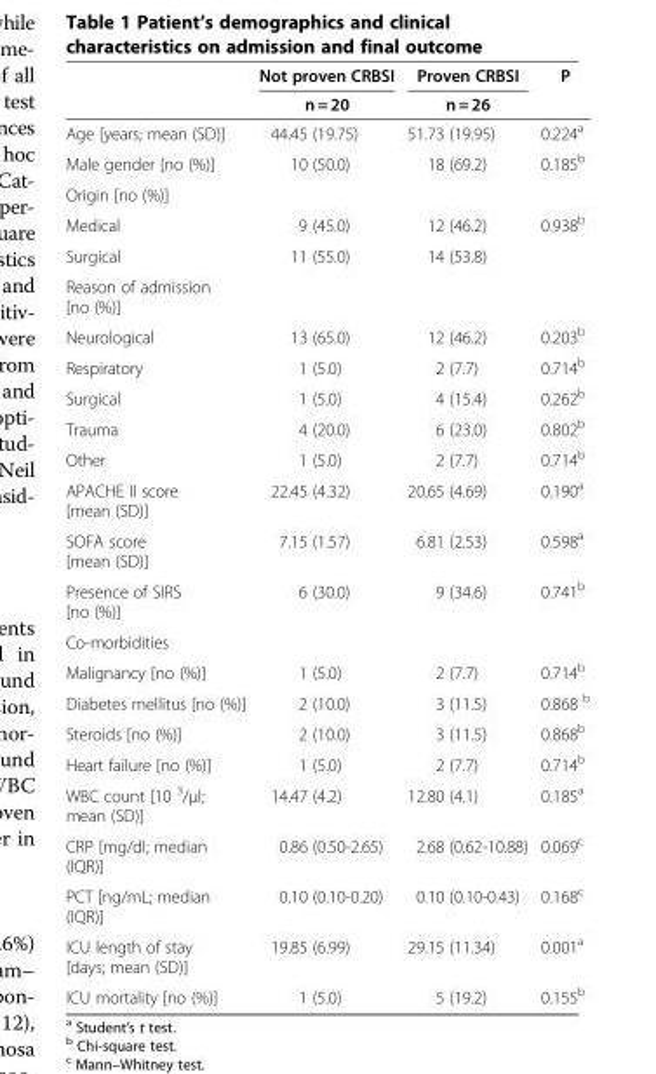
<table><thead><tr><td rowspan="2"></td><td rowspan="2">Not proven CRBSI n = 20</td><td rowspan="2">Proven CRBSI n = 26</td><td rowspan="2">P</td></tr><tr></tr></thead><tbody><tr><td>Age [years; mean (SD)]</td><td>44.45 (19.75)</td><td>51.73 (19.95)</td><td>0.224<sup>a</sup></td></tr><tr><td>Male gender [no (%)]</td><td>10 (50.0)</td><td>18 (69.2)</td><td>0.185<sup>b</sup></td></tr><tr><td colspan="4">Origin [no (%)]</td></tr><tr><td>Medical</td><td>9 (45.0)</td><td>12 (46.2)</td><td>0.938<sup>b</sup></td></tr><tr><td>Surgical</td><td>11 (55.0)</td><td>14 (53.8)</td><td></td></tr><tr><td colspan="4">Reason of admission [no (%)]</td></tr><tr><td>Neurological</td><td>13 (65.0)</td><td>12 (46.2)</td><td>0.203<sup>b</sup></td></tr><tr><td>Respiratory</td><td>1 (5.0)</td><td>2 (7.7)</td><td>0.714<sup>b</sup></td></tr><tr><td>Surgical</td><td>1 (5.0)</td><td>4 (15.4)</td><td>0.262<sup>b</sup></td></tr><tr><td>Trauma</td><td>4 (20.0)</td><td>6 (23.0)</td><td>0.802<sup>b</sup></td></tr><tr><td>Other</td><td>1 (5.0)</td><td>2 (7.7)</td><td>0.714<sup>b</sup></td></tr><tr><td>APACHE II score [mean (SD)]</td><td>22.45 (4.32)</td><td>20.65 (4.69)</td><td>0.190<sup>a</sup></td></tr><tr><td>SOFA score [mean (SD)]</td><td>7.15 (1.57)</td><td>6.81 (2.53)</td><td>0.598<sup>a</sup></td></tr><tr><td>Presence of SIRS [no (%)]</td><td>6 (30.0)</td><td>9 (34.6)</td><td>0.741<sup>b</sup></td></tr><tr><td colspan="4">Co-morbidities</td></tr><tr><td>Malignancy [no (%)]</td><td>1 (5.0)</td><td>2 (7.7)</td><td>0.714<sup>b</sup></td></tr><tr><td>Diabetes mellitus [no (%)]</td><td>2 (10.0)</td><td>3 (11.5)</td><td>0.868 <sup>b</sup></td></tr><tr><td>Steroids [no (%)]</td><td>2 (10.0)</td><td>3 (11.5)</td><td>0.868<sup>b</sup></td></tr><tr><td>Heart failure [no (%)]</td><td>1 (5.0)</td><td>2 (7.7)</td><td>0.714<sup>b</sup></td></tr><tr><td>WBC count [10 <sup>3</sup>/μl; mean (SD)]</td><td>14.47 (4.2)</td><td>12.80 (4.1)</td><td>0.185<sup>a</sup></td></tr><tr><td>CRP [mg/dl; median (IQR)]</td><td>0.86 (0.50-2.65)</td><td>2.68 (0.62-10.88)</td><td>0.069<sup>c</sup></td></tr><tr><td>PCT [ng/mL; median (IQR)]</td><td>0.10 (0.10-0.20)</td><td>0.10 (0.10-0.43)</td><td>0.168<sup>c</sup></td></tr><tr><td>ICU length of stay [days; mean (SD)]</td><td>19.85 (6.99)</td><td>29.15 (11.34)</td><td>0.001<sup>a</sup></td></tr><tr><td>ICU mortality [no (%)]</td><td>1 (5.0)</td><td>5 (19.2)</td><td>0.155<sup>b</sup></td></tr></tbody></table>